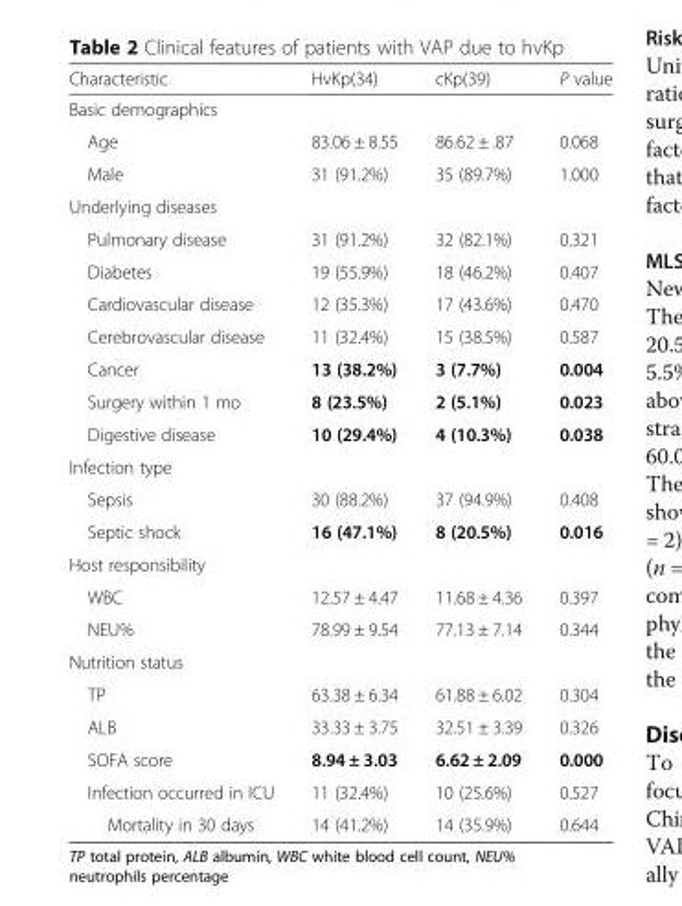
<table><thead><tr><td>Characteristic</td><td>HvKp(34)</td><td>cKp(39)</td><td>P value</td></tr></thead><tbody><tr><td colspan="4">Basic demographics</td></tr><tr><td>Age</td><td>83.06 ± 8.55</td><td>86.62 ± .87</td><td>0.068</td></tr><tr><td>Male</td><td>31 (91.2%)</td><td>35 (89.7%)</td><td>1.000</td></tr><tr><td colspan="4">Underlying diseases</td></tr><tr><td>Pulmonary disease</td><td>31 (91.2%)</td><td>32 (82.1%)</td><td>0.321</td></tr><tr><td>Diabetes</td><td>19 (55.9%)</td><td>18 (46.2%)</td><td>0.407</td></tr><tr><td>Cardiovascular disease</td><td>12 (35.3%)</td><td>17 (43.6%)</td><td>0.470</td></tr><tr><td>Cerebrovascular disease</td><td>11 (32.4%)</td><td>15 (38.5%)</td><td>0.587</td></tr><tr><td>Cancer</td><td>13 (38.2%)</td><td>3 (7.7%)</td><td>0.004</td></tr><tr><td>Surgery within 1 mo</td><td>8 (23.5%)</td><td>2 (5.1%)</td><td>0.023</td></tr><tr><td>Digestive disease</td><td>10 (29.4%)</td><td>4 (10.3%)</td><td>0.038</td></tr><tr><td colspan="4">Infection type</td></tr><tr><td>Sepsis</td><td>30 (88.2%)</td><td>37 (94.9%)</td><td>0.408</td></tr><tr><td>Septic shock</td><td>16 (47.1%)</td><td>8 (20.5%)</td><td>0.016</td></tr><tr><td colspan="4">Host responsibility</td></tr><tr><td>WBC</td><td>12.57 ± 4.47</td><td>11.68 ± 4.36</td><td>0.397</td></tr><tr><td>NEU%</td><td>78.99 ± 9.54</td><td>77.13 ± 7.14</td><td>0.344</td></tr><tr><td colspan="4">Nutrition status</td></tr><tr><td>TP</td><td>63.38 ± 6.34</td><td>61.88 ± 6.02</td><td>0.304</td></tr><tr><td>ALB</td><td>33.33 ± 3.75</td><td>32.51 ± 3.39</td><td>0.326</td></tr><tr><td>SOFA score</td><td>8.94 ± 3.03</td><td>6.62 ± 2.09</td><td>0.000</td></tr><tr><td>Infection occurred in ICU</td><td>11 (32.4%)</td><td>10 (25.6%)</td><td>0.527</td></tr><tr><td>Mortality in 30 days</td><td>14 (41.2%)</td><td>14 (35.9%)</td><td>0.644</td></tr></tbody></table>